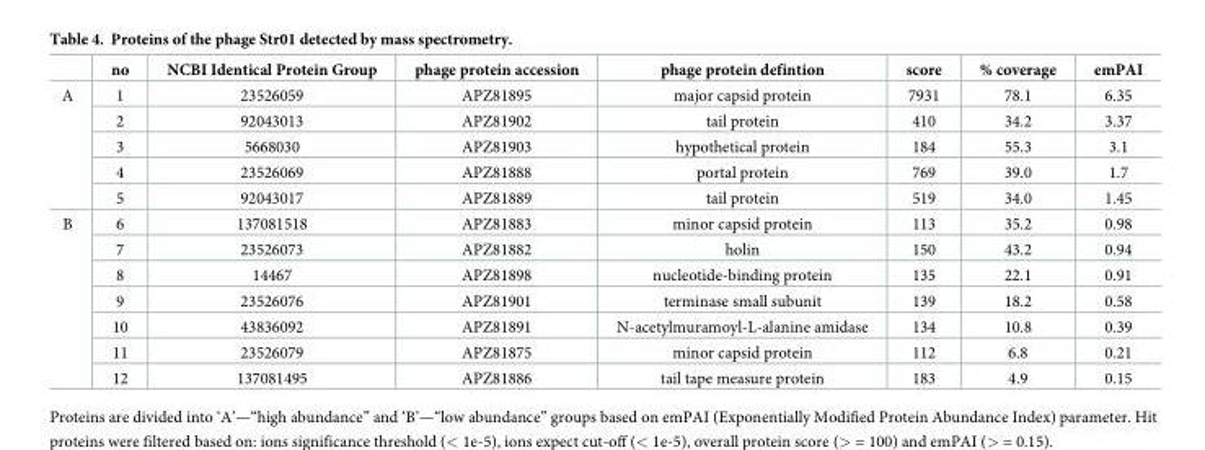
<table><thead><tr><td></td><td>no</td><td>NCBI Identical Protein Group</td><td>phage protein accession</td><td>phage protein defintion</td><td>score</td><td>% coverage</td><td>emPAI</td></tr></thead><tbody><tr><td rowspan="5">A</td><td>1</td><td>23526059</td><td>APZ81895</td><td>major capsid protein</td><td>7931</td><td>78.1</td><td>6.35</td></tr><tr><td>2</td><td>92043013</td><td>APZ81902</td><td>tail protein</td><td>410</td><td>34.2</td><td>3.37</td></tr><tr><td>3</td><td>5668030</td><td>APZ81903</td><td>hypothetical protein</td><td>184</td><td>55.3</td><td>3.1</td></tr><tr><td>4</td><td>23526069</td><td>APZ81888</td><td>portal protein</td><td>769</td><td>39.0</td><td>1.7</td></tr><tr><td>5</td><td>92043017</td><td>APZ81889</td><td>tail protein</td><td>519</td><td>34.0</td><td>1.45</td></tr><tr><td rowspan="7">B</td><td>6</td><td>137081518</td><td>APZ81883</td><td>minor capsid protein</td><td>113</td><td>35.2</td><td>0.98</td></tr><tr><td>7</td><td>23526073</td><td>APZ81882</td><td>holin</td><td>150</td><td>43.2</td><td>0.94</td></tr><tr><td>8</td><td>14467</td><td>APZ81898</td><td>nucleotide-binding protein</td><td>135</td><td>22.1</td><td>0.91</td></tr><tr><td>9</td><td>23526076</td><td>APZ81901</td><td>terminase small subunit</td><td>139</td><td>18.2</td><td>0.58</td></tr><tr><td>10</td><td>43836092</td><td>APZ81891</td><td>N-acetylmuramoyl-L-alanine amidase</td><td>134</td><td>10.8</td><td>0.39</td></tr><tr><td>11</td><td>23526079</td><td>APZ81875</td><td>minor capsid protein</td><td>112</td><td>6.8</td><td>0.21</td></tr><tr><td>12</td><td>137081495</td><td>APZ81886</td><td>tail tape measure protein</td><td>183</td><td>4.9</td><td>0.15</td></tr></tbody></table>